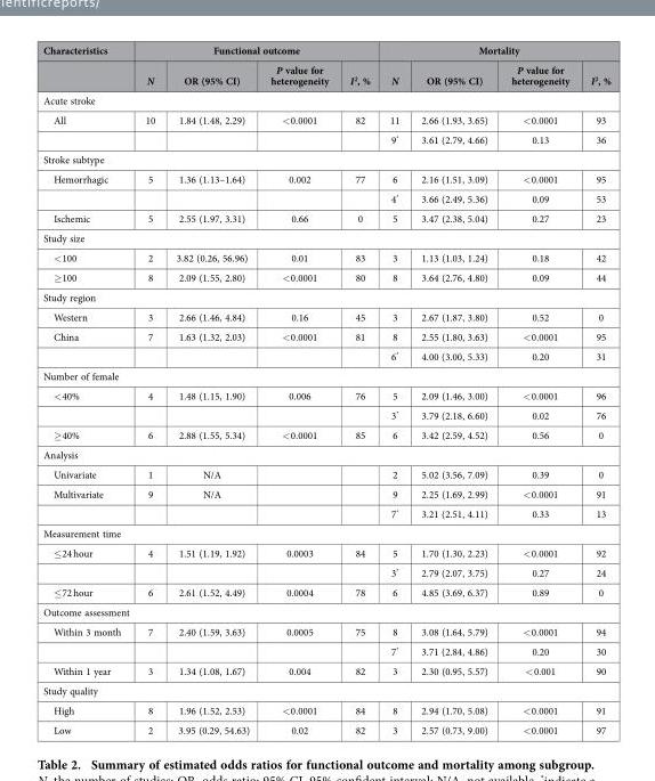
<table><thead><tr><td rowspan="2">Characteristics</td><td colspan="4">Functional outcome</td><td colspan="4">Mortality</td></tr><tr><td>N</td><td>OR (95% CI)</td><td>P value for heterogeneity</td><td>I<sup>2</sup>, %</td><td>N</td><td>OR (95% CI)</td><td>P value for heterogeneity</td><td>I<sup>2</sup>, %</td></tr></thead><tbody><tr><td colspan="9">Acute stroke</td></tr><tr><td rowspan="2">All</td><td>10</td><td>1.84 (1.48, 2.29)</td><td>&lt; 0.0001</td><td>82</td><td>11</td><td>2.66 (1.93, 3.65)</td><td>&lt; 0.0001</td><td>93</td></tr><tr><td></td><td></td><td></td><td></td><td>9*</td><td>3.61 (2.79, 4.66)</td><td>0.13</td><td>36</td></tr><tr><td colspan="9">Stroke subtype</td></tr><tr><td rowspan="2">Hemorrhagic</td><td>5</td><td>1.36 (1.13–1.64)</td><td>0.002</td><td>77</td><td>6</td><td>2.16 (1.51, 3.09)</td><td>&lt; 0.0001</td><td>95</td></tr><tr><td></td><td></td><td></td><td></td><td>4*</td><td>3.66 (2.49, 5.36)</td><td>0.09</td><td>53</td></tr><tr><td>Ischemic</td><td>5</td><td>2.55 (1.97, 3.31)</td><td>0.66</td><td>0</td><td>5</td><td>3.47 (2.38, 5.04)</td><td>0.27</td><td>23</td></tr><tr><td colspan="9">Study size</td></tr><tr><td>&lt; 100</td><td>2</td><td>3.82 (0.26, 56.96)</td><td>0.01</td><td>83</td><td>3</td><td>1.13 (1.03, 1.24)</td><td>0.18</td><td>42</td></tr><tr><td>≥ 100</td><td>8</td><td>2.09 (1.55, 2.80)</td><td>&lt; 0.0001</td><td>80</td><td>8</td><td>3.64 (2.76, 4.80)</td><td>0.09</td><td>44</td></tr><tr><td colspan="9">Study region</td></tr><tr><td>Western</td><td>3</td><td>2.66 (1.46, 4.84)</td><td>0.16</td><td>45</td><td>3</td><td>2.67 (1.87, 3.80)</td><td>0.52</td><td>0</td></tr><tr><td rowspan="2">China</td><td>7</td><td>1.63 (1.32, 2.03)</td><td>&lt; 0.0001</td><td>81</td><td>8</td><td>2.55 (1.80, 3.63)</td><td>&lt; 0.0001</td><td>95</td></tr><tr><td></td><td></td><td></td><td></td><td>6*</td><td>4.00 (3.00, 5.33)</td><td>0.20</td><td>31</td></tr><tr><td colspan="9">Number of female</td></tr><tr><td rowspan="2">&lt; 40%</td><td>4</td><td>1.48 (1.15, 1.90)</td><td>0.006</td><td>76</td><td>5</td><td>2.09 (1.46, 3.00)</td><td>&lt; 0.0001</td><td>96</td></tr><tr><td></td><td></td><td></td><td></td><td>3*</td><td>3.79 (2.18, 6.60)</td><td>0.02</td><td>76</td></tr><tr><td>≥ 40%</td><td>6</td><td>2.88 (1.55, 5.34)</td><td>&lt; 0.0001</td><td>85</td><td>6</td><td>3.42 (2.59, 4.52)</td><td>0.56</td><td>0</td></tr><tr><td colspan="9">Analysis</td></tr><tr><td>Univariate</td><td>1</td><td>N/A</td><td></td><td></td><td>2</td><td>5.02 (3.56, 7.09)</td><td>0.39</td><td>0</td></tr><tr><td rowspan="2">Multivariate</td><td>9</td><td>N/A</td><td></td><td></td><td>9</td><td>2.25 (1.69, 2.99)</td><td>&lt; 0.0001</td><td>91</td></tr><tr><td></td><td></td><td></td><td></td><td>7*</td><td>3.21 (2.51, 4.11)</td><td>0.33</td><td>13</td></tr><tr><td colspan="9">Measurement time</td></tr><tr><td rowspan="2">≤ 24 hour</td><td>4</td><td>1.51 (1.19, 1.92)</td><td>0.0003</td><td>84</td><td>5</td><td>1.70 (1.30, 2.23)</td><td>&lt; 0.0001</td><td>92</td></tr><tr><td></td><td></td><td></td><td></td><td>3*</td><td>2.79 (2.07, 3.75)</td><td>0.27</td><td>24</td></tr><tr><td>≤ 72 hour</td><td>6</td><td>2.61 (1.52, 4.49)</td><td>0.0004</td><td>78</td><td>6</td><td>4.85 (3.69, 6.37)</td><td>0.89</td><td>0</td></tr><tr><td colspan="9">Outcome assessment</td></tr><tr><td rowspan="2">Within 3 month</td><td>7</td><td>2.40 (1.59, 3.63)</td><td>0.0005</td><td>75</td><td>8</td><td>3.08 (1.64, 5.79)</td><td>&lt; 0.0001</td><td>94</td></tr><tr><td></td><td></td><td></td><td></td><td>7*</td><td>3.71 (2.84, 4.86)</td><td>0.20</td><td>30</td></tr><tr><td>Within 1 year</td><td>3</td><td>1.34 (1.08, 1.67)</td><td>0.004</td><td>82</td><td>3</td><td>2.30 (0.95, 5.57)</td><td>&lt; 0.001</td><td>90</td></tr><tr><td colspan="9">Study quality</td></tr><tr><td>High</td><td>8</td><td>1.96 (1.52, 2.53)</td><td>&lt; 0.0001</td><td>84</td><td>8</td><td>2.94 (1.70, 5.08)</td><td>&lt; 0.0001</td><td>91</td></tr><tr><td>Low</td><td>2</td><td>3.95 (0.29, 54.63)</td><td>0.02</td><td>82</td><td>3</td><td>2.57 (0.73, 9.00)</td><td>&lt; 0.0001</td><td>97</td></tr></tbody></table>